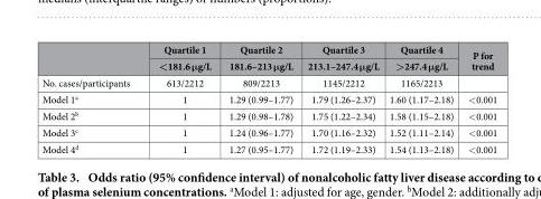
<table><thead><tr><td rowspan="2"></td><td rowspan="2">Quartile 1 &lt;181.6 μg/L</td><td rowspan="2">Quartile 2 181.6–213 μg/L</td><td rowspan="2">Quartile 3 213.1–247.4 μg/L</td><td rowspan="2">Quartile 4 &gt;247.4 μg/L</td><td rowspan="2">P for trend</td></tr><tr></tr></thead><tbody><tr><td>No. cases/participants</td><td>613/2212</td><td>809/2213</td><td>1145/2212</td><td>1165/2213</td><td></td></tr><tr><td>Model 1<sup>a</sup></td><td>1</td><td>1.29 (0.99–1.77)</td><td>1.79 (1.26–2.37)</td><td>1.60 (1.17–2.18)</td><td>&lt; 0.001</td></tr><tr><td>Model 2<sup>b</sup></td><td>1</td><td>1.29 (0.98–1.78)</td><td>1.75 (1.22–2.34)</td><td>1.58 (1.15–2.18)</td><td>&lt; 0.001</td></tr><tr><td>Model 3<sup>c</sup></td><td>1</td><td>1.24 (0.96–1.77)</td><td>1.70 (1.16–2.32)</td><td>1.52 (1.11–2.14)</td><td>&lt; 0.001</td></tr><tr><td>Model 4<sup>d</sup></td><td>1</td><td>1.27 (0.95–1.77)</td><td>1.72 (1.19–2.33)</td><td>1.54 (1.13–2.18)</td><td>&lt; 0.001</td></tr></tbody></table>